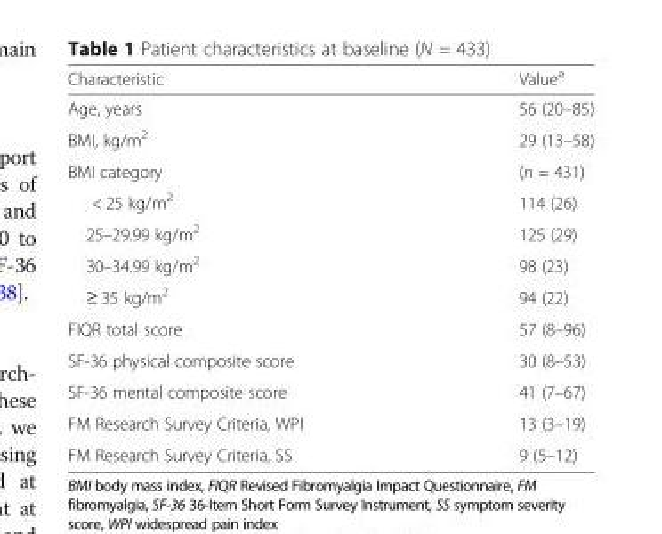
<table><thead><tr><td>Characteristic</td><td>Value<sup>a</sup></td></tr></thead><tbody><tr><td>Age, years</td><td>56 (20–85)</td></tr><tr><td>BMI, kg/m<sup>2</sup></td><td>29 (13–58)</td></tr><tr><td>BMI category</td><td>(n = 431)</td></tr><tr><td>&lt; 25 kg/m<sup>2</sup></td><td>114 (26)</td></tr><tr><td>25–29.99 kg/m<sup>2</sup></td><td>125 (29)</td></tr><tr><td>30–34.99 kg/m<sup>2</sup></td><td>98 (23)</td></tr><tr><td>≥ 35 kg/m<sup>2</sup></td><td>94 (22)</td></tr><tr><td>FIQR total score</td><td>57 (8–96)</td></tr><tr><td>SF-36 physical composite score</td><td>30 (8–53)</td></tr><tr><td>SF-36 mental composite score</td><td>41 (7–67)</td></tr><tr><td>FM Research Survey Criteria, WPI</td><td>13 (3–19)</td></tr><tr><td>FM Research Survey Criteria, SS</td><td>9 (5–12)</td></tr></tbody></table>